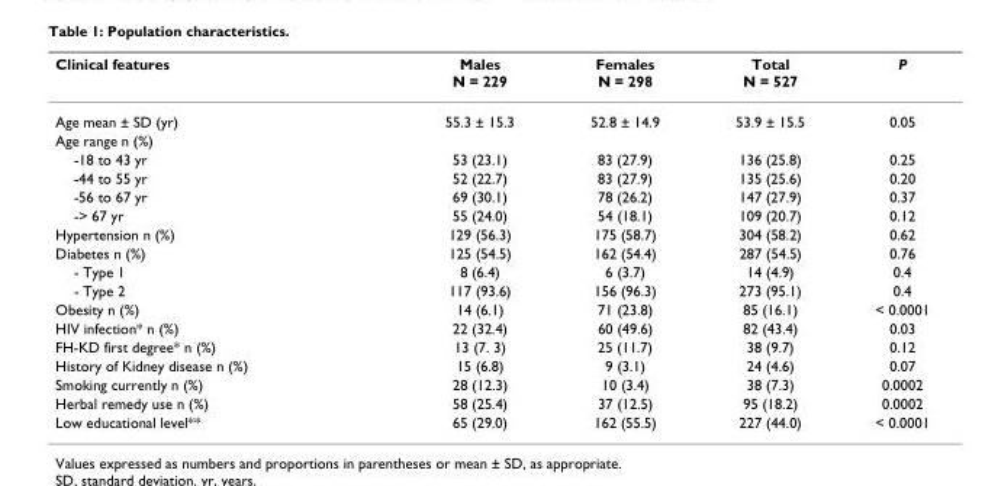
<table><thead><tr><td>Clinical features</td><td>Males N = 229</td><td>Females N = 298</td><td>Total N = 527</td><td>P</td></tr></thead><tbody><tr><td>Age mean ± SD (yr)</td><td>55.3 ± 15.3</td><td>52.8 ± 14.9</td><td>53.9 ± 15.5</td><td>0.05</td></tr><tr><td colspan="5">Age range n (%)</td></tr><tr><td>-18 to 43 yr</td><td>53 (23.1)</td><td>83 (27.9)</td><td>136 (25.8)</td><td>0.25</td></tr><tr><td>-44 to 55 yr</td><td>52 (22.7)</td><td>83 (27.9)</td><td>135 (25.6)</td><td>0.20</td></tr><tr><td>-56 to 67 yr</td><td>69 (30.1)</td><td>78 (26.2)</td><td>147 (27.9)</td><td>0.37</td></tr><tr><td>-&gt; 67 yr</td><td>55 (24.0)</td><td>54 (18.1)</td><td>109 (20.7)</td><td>0.12</td></tr><tr><td>Hypertension n (%)</td><td>129 (56.3)</td><td>175 (58.7)</td><td>304 (58.2)</td><td>0.62</td></tr><tr><td>Diabetes n (%)</td><td>125 (54.5)</td><td>162 (54.4)</td><td>287 (54.5)</td><td>0.76</td></tr><tr><td>- Type 1</td><td>8 (6.4)</td><td>6 (3.7)</td><td>14 (4.9)</td><td>0.4</td></tr><tr><td>- Type 2</td><td>117 (93.6)</td><td>156 (96.3)</td><td>273 (95.1)</td><td>0.4</td></tr><tr><td>Obesity n (%)</td><td>14 (6.1)</td><td>71 (23.8)</td><td>85 (16.1)</td><td>&lt; 0.0001</td></tr><tr><td>HIV infection* n (%)</td><td>22 (32.4)</td><td>60 (49.6)</td><td>82 (43.4)</td><td>0.03</td></tr><tr><td>FH-KD first degree* n (%)</td><td>13 (7. 3)</td><td>25 (11.7)</td><td>38 (9.7)</td><td>0.12</td></tr><tr><td>History of Kidney disease n (%)</td><td>15 (6.8)</td><td>9 (3.1)</td><td>24 (4.6)</td><td>0.07</td></tr><tr><td>Smoking currently n (%)</td><td>28 (12.3)</td><td>10 (3.4)</td><td>38 (7.3)</td><td>0.0002</td></tr><tr><td>Herbal remedy use n (%)</td><td>58 (25.4)</td><td>37 (12.5)</td><td>95 (18.2)</td><td>0.0002</td></tr><tr><td>Low educational level**</td><td>65 (29.0)</td><td>162 (55.5)</td><td>227 (44.0)</td><td>&lt; 0.0001</td></tr></tbody></table>